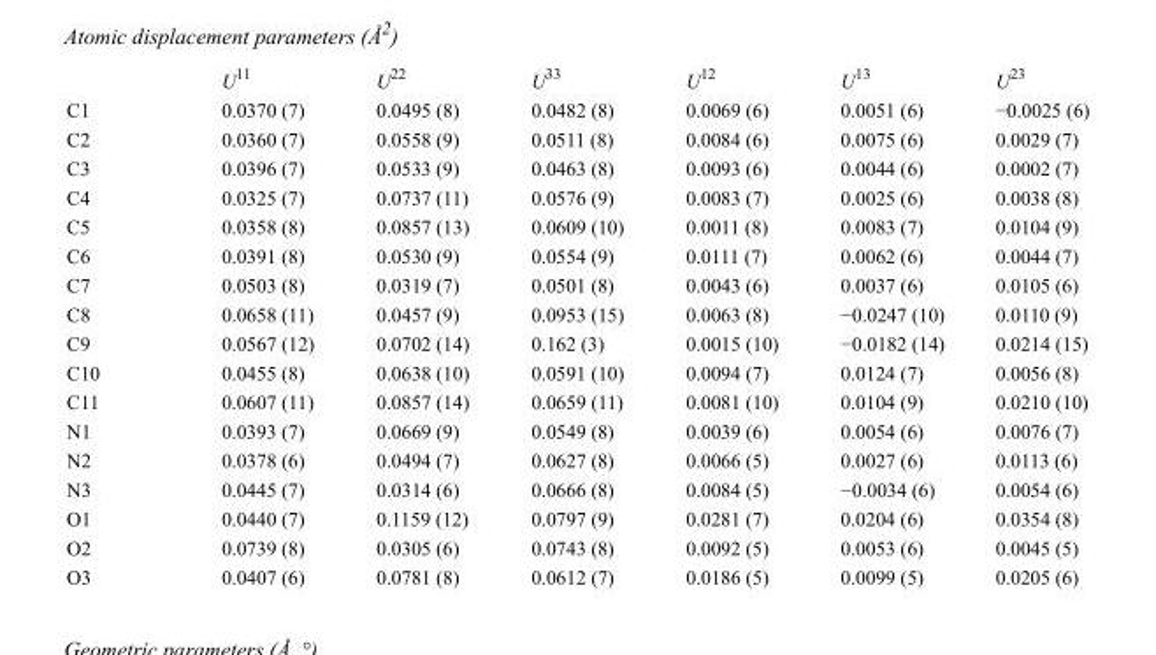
<table><thead><tr><td></td><td>U<sup>11</sup></td><td>U<sup>22</sup></td><td>U<sup>33</sup></td><td>U<sup>12</sup></td><td>U<sup>13</sup></td><td>U<sup>23</sup></td></tr></thead><tbody><tr><td>C1</td><td>0.0370 (7)</td><td>0.0495 (8)</td><td>0.0482 (8)</td><td>0.0069 (6)</td><td>0.0051 (6)</td><td>−0.0025 (6)</td></tr><tr><td>C2</td><td>0.0360 (7)</td><td>0.0558 (9)</td><td>0.0511 (8)</td><td>0.0084 (6)</td><td>0.0075 (6)</td><td>0.0029 (7)</td></tr><tr><td>C3</td><td>0.0396 (7)</td><td>0.0533 (9)</td><td>0.0463 (8)</td><td>0.0093 (6)</td><td>0.0044 (6)</td><td>0.0002 (7)</td></tr><tr><td>C4</td><td>0.0325 (7)</td><td>0.0737 (11)</td><td>0.0576 (9)</td><td>0.0083 (7)</td><td>0.0025 (6)</td><td>0.0038 (8)</td></tr><tr><td>C5</td><td>0.0358 (8)</td><td>0.0857 (13)</td><td>0.0609 (10)</td><td>0.0011 (8)</td><td>0.0083 (7)</td><td>0.0104 (9)</td></tr><tr><td>C6</td><td>0.0391 (8)</td><td>0.0530 (9)</td><td>0.0554 (9)</td><td>0.0111 (7)</td><td>0.0062 (6)</td><td>0.0044 (7)</td></tr><tr><td>C7</td><td>0.0503 (8)</td><td>0.0319 (7)</td><td>0.0501 (8)</td><td>0.0043 (6)</td><td>0.0037 (6)</td><td>0.0105 (6)</td></tr><tr><td>C8</td><td>0.0658 (11)</td><td>0.0457 (9)</td><td>0.0953 (15)</td><td>0.0063 (8)</td><td>−0.0247 (10)</td><td>0.0110 (9)</td></tr><tr><td>C9</td><td>0.0567 (12)</td><td>0.0702 (14)</td><td>0.162 (3)</td><td>0.0015 (10)</td><td>−0.0182 (14)</td><td>0.0214 (15)</td></tr><tr><td>C10</td><td>0.0455 (8)</td><td>0.0638 (10)</td><td>0.0591 (10)</td><td>0.0094 (7)</td><td>0.0124 (7)</td><td>0.0056 (8)</td></tr><tr><td>C11</td><td>0.0607 (11)</td><td>0.0857 (14)</td><td>0.0659 (11)</td><td>0.0081 (10)</td><td>0.0104 (9)</td><td>0.0210 (10)</td></tr><tr><td>N1</td><td>0.0393 (7)</td><td>0.0669 (9)</td><td>0.0549 (8)</td><td>0.0039 (6)</td><td>0.0054 (6)</td><td>0.0076 (7)</td></tr><tr><td>N2</td><td>0.0378 (6)</td><td>0.0494 (7)</td><td>0.0627 (8)</td><td>0.0066 (5)</td><td>0.0027 (6)</td><td>0.0113 (6)</td></tr><tr><td>N3</td><td>0.0445 (7)</td><td>0.0314 (6)</td><td>0.0666 (8)</td><td>0.0084 (5)</td><td>−0.0034 (6)</td><td>0.0054 (6)</td></tr><tr><td>O1</td><td>0.0440 (7)</td><td>0.1159 (12)</td><td>0.0797 (9)</td><td>0.0281 (7)</td><td>0.0204 (6)</td><td>0.0354 (8)</td></tr><tr><td>O2</td><td>0.0739 (8)</td><td>0.0305 (6)</td><td>0.0743 (8)</td><td>0.0092 (5)</td><td>0.0053 (6)</td><td>0.0045 (5)</td></tr><tr><td>O3</td><td>0.0407 (6)</td><td>0.0781 (8)</td><td>0.0612 (7)</td><td>0.0186 (5)</td><td>0.0099 (5)</td><td>0.0205 (6)</td></tr></tbody></table>